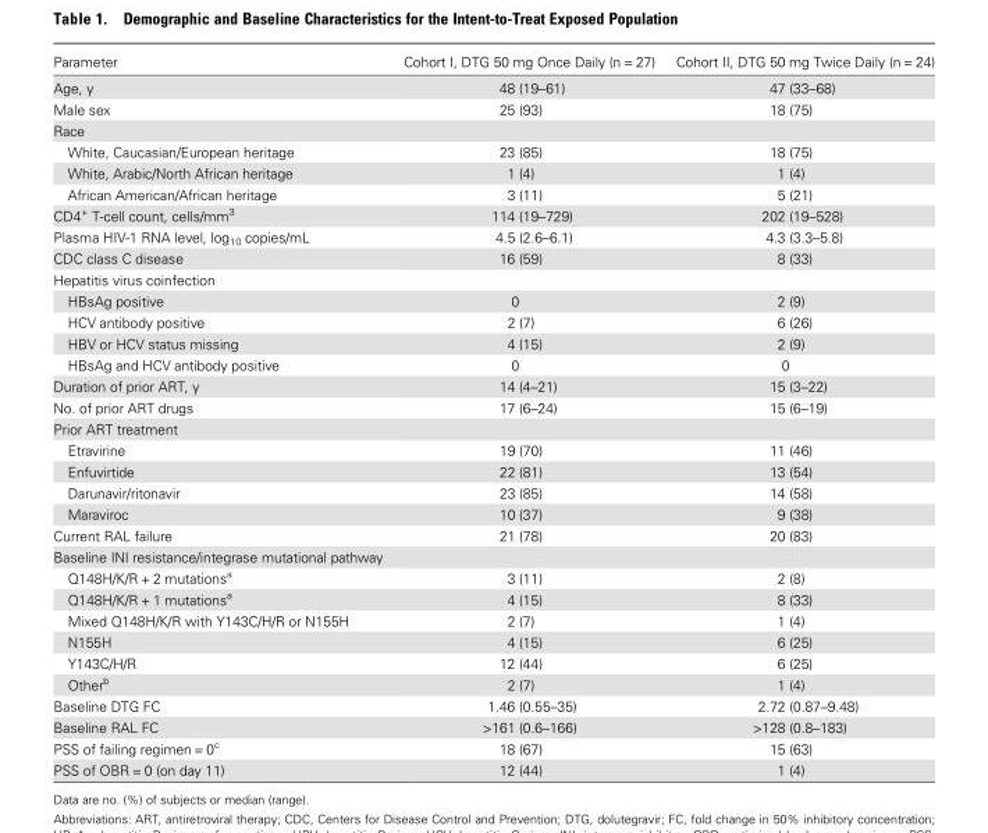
<table><thead><tr><td>Parameter</td><td>Cohort I, DTG 50 mg Once Daily (n = 27)</td><td>Cohort II, DTG 50 mg Twice Daily (n = 24)</td></tr></thead><tbody><tr><td>Age, y</td><td>48 (19–61)</td><td>47 (33–68)</td></tr><tr><td>Male sex</td><td>25 (93)</td><td>18 (75)</td></tr><tr><td colspan="3">Race</td></tr><tr><td>White, Caucasian/European heritage</td><td>23 (85)</td><td>18 (75)</td></tr><tr><td>White, Arabic/North African heritage</td><td>1 (4)</td><td>1 (4)</td></tr><tr><td>African American/African heritage</td><td>3 (11)</td><td>5 (21)</td></tr><tr><td>CD4<sup>+</sup> T-cell count, cells/mm<sup>3</sup></td><td>114 (19–729)</td><td>202 (19–528)</td></tr><tr><td>Plasma HIV-1 RNA level, log<sub>10</sub> copies/mL</td><td>4.5 (2.6–6.1)</td><td>4.3 (3.3–5.8)</td></tr><tr><td>CDC class C disease</td><td>16 (59)</td><td>8 (33)</td></tr><tr><td colspan="3">Hepatitis virus coinfection</td></tr><tr><td>HBsAg positive</td><td>0</td><td>2 (9)</td></tr><tr><td>HCV antibody positive</td><td>2 (7)</td><td>6 (26)</td></tr><tr><td>HBV or HCV status missing</td><td>4 (15)</td><td>2 (9)</td></tr><tr><td>HBsAg and HCV antibody positive</td><td>0</td><td>0</td></tr><tr><td>Duration of prior ART, y</td><td>14 (4–21)</td><td>15 (3–22)</td></tr><tr><td>No. of prior ART drugs</td><td>17 (6–24)</td><td>15 (6–19)</td></tr><tr><td colspan="3">Prior ART treatment</td></tr><tr><td>Etravirine</td><td>19 (70)</td><td>11 (46)</td></tr><tr><td>Enfuvirtide</td><td>22 (81)</td><td>13 (54)</td></tr><tr><td>Darunavir/ritonavir</td><td>23 (85)</td><td>14 (58)</td></tr><tr><td>Maraviroc</td><td>10 (37)</td><td>9 (38)</td></tr><tr><td>Current RAL failure</td><td>21 (78)</td><td>20 (83)</td></tr><tr><td colspan="3">Baseline INI resistance/integrase mutational pathway</td></tr><tr><td>Q148H/K/R + 2 mutations<sup>a</sup></td><td>3 (11)</td><td>2 (8)</td></tr><tr><td>Q148H/K/R + 1 mutations<sup>a</sup></td><td>4 (15)</td><td>8 (33)</td></tr><tr><td>Mixed Q148H/K/R with Y143C/H/R or N155H</td><td>2 (7)</td><td>1 (4)</td></tr><tr><td>N155H</td><td>4 (15)</td><td>6 (25)</td></tr><tr><td>Y143C/H/R</td><td>12 (44)</td><td>6 (25)</td></tr><tr><td>Other<sup>b</sup></td><td>2 (7)</td><td>1 (4)</td></tr><tr><td>Baseline DTG FC</td><td>1.46 (0.55–35)</td><td>2.72 (0.87–9.48)</td></tr><tr><td>Baseline RAL FC</td><td>&gt;161 (0.6–166)</td><td>&gt;128 (0.8–183)</td></tr><tr><td>PSS of failing regimen = 0<sup>c</sup></td><td>18 (67)</td><td>15 (63)</td></tr><tr><td>PSS of OBR = 0 (on day 11)</td><td>12 (44)</td><td>1 (4)</td></tr></tbody></table>